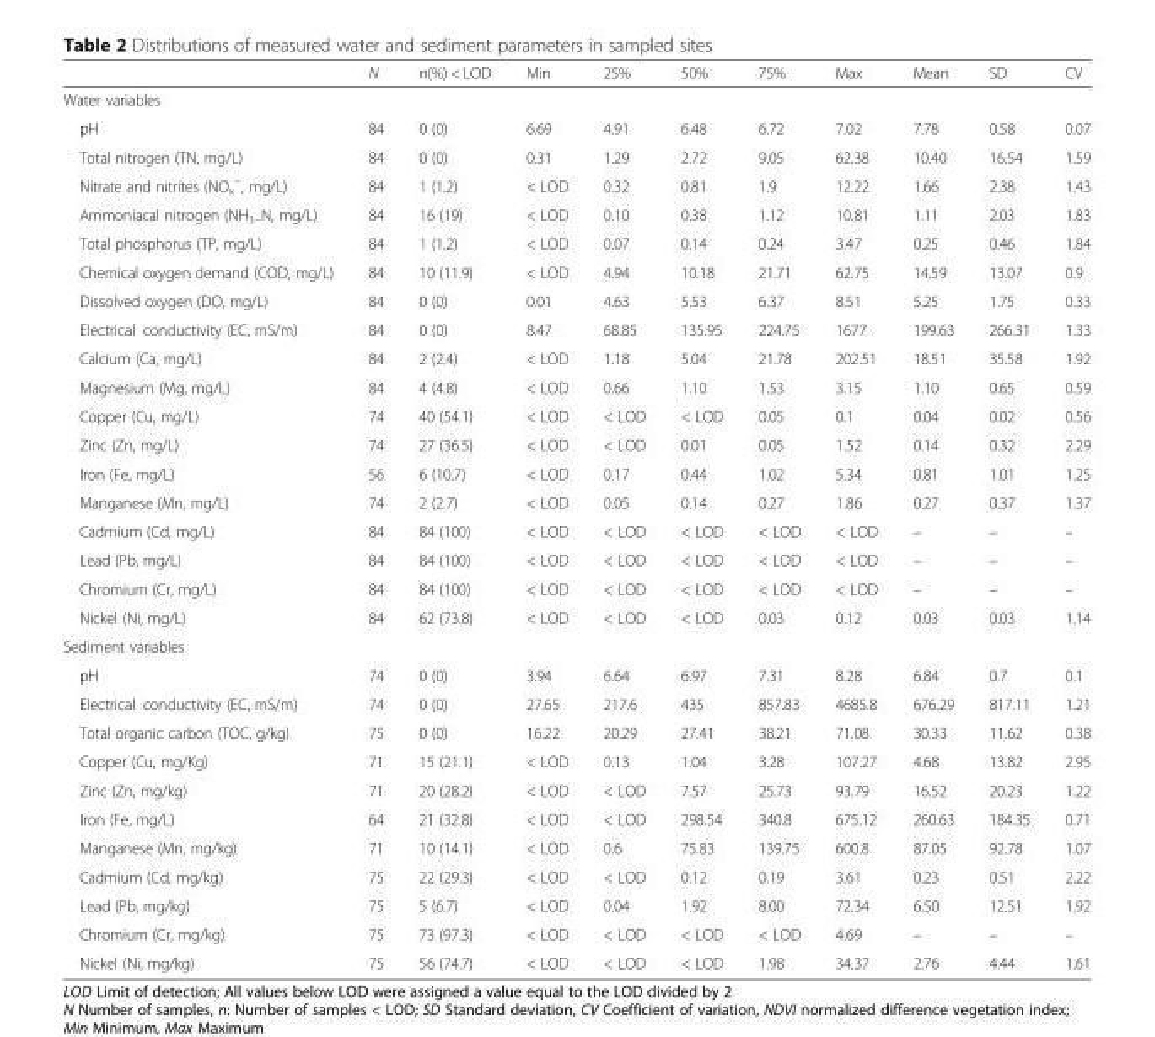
<table><thead><tr><td></td><td>N</td><td>n(%) &lt; LOD</td><td>Min</td><td>25%</td><td>50%</td><td>75%</td><td>Max</td><td>Mean</td><td>SD</td><td>CV</td></tr></thead><tbody><tr><td colspan="11">Water variables</td></tr><tr><td>pH</td><td>84</td><td>0 (0)</td><td>6.69</td><td>4.91</td><td>6.48</td><td>6.72</td><td>7.02</td><td>7.78</td><td>0.58</td><td>0.07</td></tr><tr><td>Total nitrogen (TN, mg/L)</td><td>84</td><td>0 (0)</td><td>0.31</td><td>1.29</td><td>2.72</td><td>9.05</td><td>62.38</td><td>10.40</td><td>16.54</td><td>1.59</td></tr><tr><td>Nitrate and nitrites (NO<sub>x</sub> <sup>−</sup>, mg/L)</td><td>84</td><td>1 (1.2)</td><td>&lt; LOD</td><td>0.32</td><td>0.81</td><td>1.9</td><td>12.22</td><td>1.66</td><td>2.38</td><td>1.43</td></tr><tr><td>Ammoniacal nitrogen (NH<sub>3−</sub>N, mg/L)</td><td>84</td><td>16 (19)</td><td>&lt; LOD</td><td>0.10</td><td>0.38</td><td>1.12</td><td>10.81</td><td>1.11</td><td>2.03</td><td>1.83</td></tr><tr><td>Total phosphorus (TP, mg/L)</td><td>84</td><td>1 (1.2)</td><td>&lt; LOD</td><td>0.07</td><td>0.14</td><td>0.24</td><td>3.47</td><td>0.25</td><td>0.46</td><td>1.84</td></tr><tr><td>Chemical oxygen demand (COD, mg/L)</td><td>84</td><td>10 (11.9)</td><td>&lt; LOD</td><td>4.94</td><td>10.18</td><td>21.71</td><td>62.75</td><td>14.59</td><td>13.07</td><td>0.9</td></tr><tr><td>Dissolved oxygen (DO, mg/L)</td><td>84</td><td>0 (0)</td><td>0.01</td><td>4.63</td><td>5.53</td><td>6.37</td><td>8.51</td><td>5.25</td><td>1.75</td><td>0.33</td></tr><tr><td>Electrical conductivity (EC, mS/m)</td><td>84</td><td>0 (0)</td><td>8.47</td><td>68.85</td><td>135.95</td><td>224.75</td><td>1677</td><td>199.63</td><td>266.31</td><td>1.33</td></tr><tr><td>Calcium (Ca, mg/L)</td><td>84</td><td>2 (2.4)</td><td>&lt; LOD</td><td>1.18</td><td>5.04</td><td>21.78</td><td>202.51</td><td>18.51</td><td>35.58</td><td>1.92</td></tr><tr><td>Magnesium (Mg, mg/L)</td><td>84</td><td>4 (4.8)</td><td>&lt; LOD</td><td>0.66</td><td>1.10</td><td>1.53</td><td>3.15</td><td>1.10</td><td>0.65</td><td>0.59</td></tr><tr><td>Copper (Cu, mg/L)</td><td>74</td><td>40 (54.1)</td><td>&lt; LOD</td><td>&lt; LOD</td><td>&lt; LOD</td><td>0.05</td><td>0.1</td><td>0.04</td><td>0.02</td><td>0.56</td></tr><tr><td>Zinc (Zn, mg/L)</td><td>74</td><td>27 (36.5)</td><td>&lt; LOD</td><td>&lt; LOD</td><td>0.01</td><td>0.05</td><td>1.52</td><td>0.14</td><td>0.32</td><td>2.29</td></tr><tr><td>Iron (Fe, mg/L)</td><td>56</td><td>6 (10.7)</td><td>&lt; LOD</td><td>0.17</td><td>0.44</td><td>1.02</td><td>5.34</td><td>0.81</td><td>1.01</td><td>1.25</td></tr><tr><td>Manganese (Mn, mg/L)</td><td>74</td><td>2 (2.7)</td><td>&lt; LOD</td><td>0.05</td><td>0.14</td><td>0.27</td><td>1.86</td><td>0.27</td><td>0.37</td><td>1.37</td></tr><tr><td>Cadmium (Cd, mg/L)</td><td>84</td><td>84 (100)</td><td>&lt; LOD</td><td>&lt; LOD</td><td>&lt; LOD</td><td>&lt; LOD</td><td>&lt; LOD</td><td>–</td><td>–</td><td>–</td></tr><tr><td>Lead (Pb, mg/L)</td><td>84</td><td>84 (100)</td><td>&lt; LOD</td><td>&lt; LOD</td><td>&lt; LOD</td><td>&lt; LOD</td><td>&lt; LOD</td><td>–</td><td>–</td><td>–</td></tr><tr><td>Chromium (Cr, mg/L)</td><td>84</td><td>84 (100)</td><td>&lt; LOD</td><td>&lt; LOD</td><td>&lt; LOD</td><td>&lt; LOD</td><td>&lt; LOD</td><td>–</td><td>–</td><td>–</td></tr><tr><td>Nickel (Ni, mg/L)</td><td>84</td><td>62 (73.8)</td><td>&lt; LOD</td><td>&lt; LOD</td><td>&lt; LOD</td><td>0.03</td><td>0.12</td><td>0.03</td><td>0.03</td><td>1.14</td></tr><tr><td colspan="11">Sediment variables</td></tr><tr><td>pH</td><td>74</td><td>0 (0)</td><td>3.94</td><td>6.64</td><td>6.97</td><td>7.31</td><td>8.28</td><td>6.84</td><td>0.7</td><td>0.1</td></tr><tr><td>Electrical conductivity (EC, mS/m)</td><td>74</td><td>0 (0)</td><td>27.65</td><td>217.6</td><td>435</td><td>857.83</td><td>4685.8</td><td>676.29</td><td>817.11</td><td>1.21</td></tr><tr><td>Total organic carbon (TOC, g/kg)</td><td>75</td><td>0 (0)</td><td>16.22</td><td>20.29</td><td>27.41</td><td>38.21</td><td>71.08</td><td>30.33</td><td>11.62</td><td>0.38</td></tr><tr><td>Copper (Cu, mg/Kg)</td><td>71</td><td>15 (21.1)</td><td>&lt; LOD</td><td>0.13</td><td>1.04</td><td>3.28</td><td>107.27</td><td>4.68</td><td>13.82</td><td>2.95</td></tr><tr><td>Zinc (Zn, mg/kg)</td><td>71</td><td>20 (28.2)</td><td>&lt; LOD</td><td>&lt; LOD</td><td>7.57</td><td>25.73</td><td>93.79</td><td>16.52</td><td>20.23</td><td>1.22</td></tr><tr><td>Iron (Fe, mg/L)</td><td>64</td><td>21 (32.8)</td><td>&lt; LOD</td><td>&lt; LOD</td><td>298.54</td><td>340.8</td><td>675.12</td><td>260.63</td><td>184.35</td><td>0.71</td></tr><tr><td>Manganese (Mn, mg/kg)</td><td>71</td><td>10 (14.1)</td><td>&lt; LOD</td><td>0.6</td><td>75.83</td><td>139.75</td><td>600.8</td><td>87.05</td><td>92.78</td><td>1.07</td></tr><tr><td>Cadmium (Cd, mg/kg)</td><td>75</td><td>22 (29.3)</td><td>&lt; LOD</td><td>&lt; LOD</td><td>0.12</td><td>0.19</td><td>3.61</td><td>0.23</td><td>0.51</td><td>2.22</td></tr><tr><td>Lead (Pb, mg/kg)</td><td>75</td><td>5 (6.7)</td><td>&lt; LOD</td><td>0.04</td><td>1.92</td><td>8.00</td><td>72.34</td><td>6.50</td><td>12.51</td><td>1.92</td></tr><tr><td>Chromium (Cr, mg/kg)</td><td>75</td><td>73 (97.3)</td><td>&lt; LOD</td><td>&lt; LOD</td><td>&lt; LOD</td><td>&lt; LOD</td><td>4.69</td><td>–</td><td>–</td><td>–</td></tr><tr><td>Nickel (Ni, mg/kg)</td><td>75</td><td>56 (74.7)</td><td>&lt; LOD</td><td>&lt; LOD</td><td>&lt; LOD</td><td>1.98</td><td>34.37</td><td>2.76</td><td>4.44</td><td>1.61</td></tr></tbody></table>